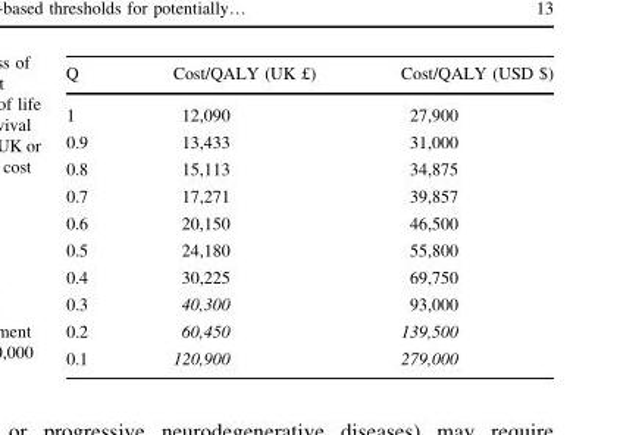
<table><thead><tr><td>Q</td><td>Cost/QALY (UK £)</td><td>Cost/QALY (USD $)</td></tr></thead><tbody><tr><td>1</td><td>12,090</td><td>27,900</td></tr><tr><td>0.9</td><td>13,433</td><td>31,000</td></tr><tr><td>0.8</td><td>15,113</td><td>34,875</td></tr><tr><td>0.7</td><td>17,271</td><td>39,857</td></tr><tr><td>0.6</td><td>20,150</td><td>46,500</td></tr><tr><td>0.5</td><td>24,180</td><td>55,800</td></tr><tr><td>0.4</td><td>30,225</td><td>69,750</td></tr><tr><td>0.3</td><td>40,300</td><td>93,000</td></tr><tr><td>0.2</td><td>60,450</td><td>139,500</td></tr><tr><td>0.1</td><td>120,900</td><td>279,000</td></tr></tbody></table>